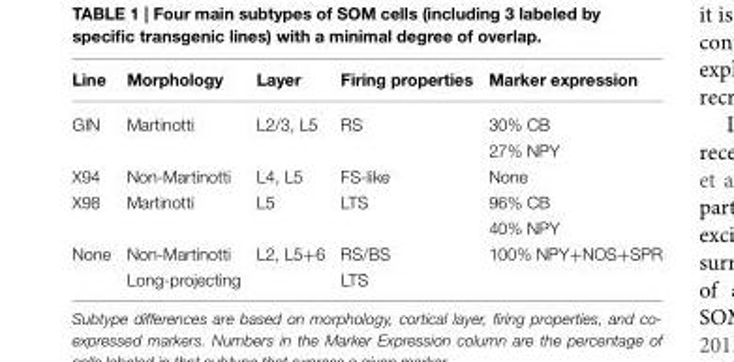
<table><thead><tr><td>Line</td><td>Morphology</td><td>Layer</td><td>Firing properties</td><td>Marker expression</td></tr></thead><tbody><tr><td rowspan="2">GIN</td><td>Martinotti</td><td>L2/3, L5</td><td>RS</td><td>30% CB</td></tr><tr><td></td><td></td><td></td><td>27% NPY</td></tr><tr><td>X94</td><td>Non-Martinotti</td><td>L4, L5</td><td>FS-like</td><td>None</td></tr><tr><td rowspan="2">X98</td><td>Martinotti</td><td>L5</td><td>LTS</td><td>96% CB</td></tr><tr><td></td><td></td><td></td><td>40% NPY</td></tr><tr><td rowspan="2">None</td><td>Non-Martinotti</td><td>L2, L5+6</td><td>RS/BS</td><td>100% NPY+NOS+SPR</td></tr><tr><td>Long-projecting</td><td></td><td>LTS</td><td></td></tr></tbody></table>